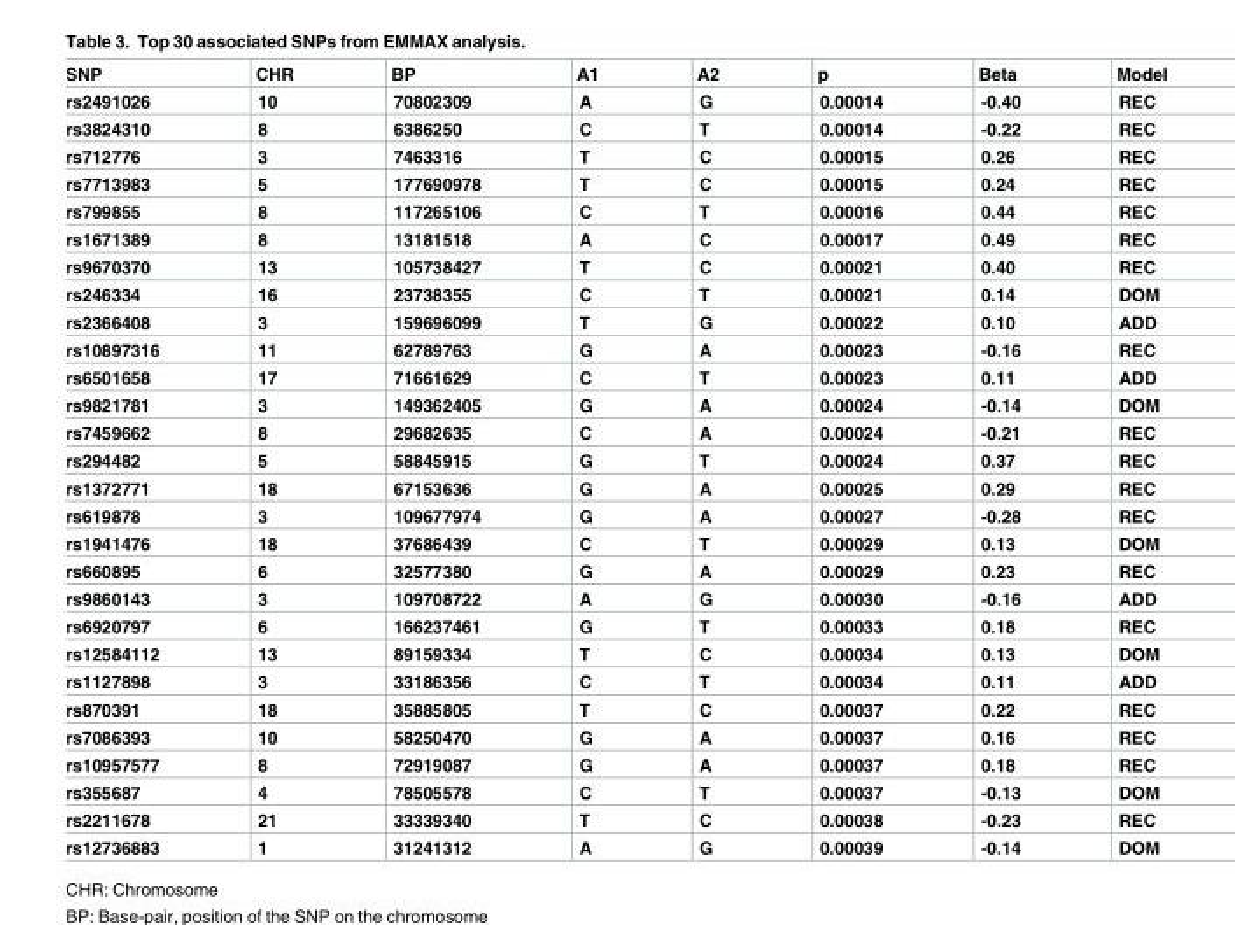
<table><thead><tr><td>SNP</td><td>CHR</td><td>BP</td><td>A1</td><td>A2</td><td>p</td><td>Beta</td><td>Model</td></tr></thead><tbody><tr><td>rs2491026</td><td>10</td><td>70802309</td><td>A</td><td>G</td><td>0.00014</td><td>-0.40</td><td>REC</td></tr><tr><td>rs3824310</td><td>8</td><td>6386250</td><td>C</td><td>T</td><td>0.00014</td><td>-0.22</td><td>REC</td></tr><tr><td>rs712776</td><td>3</td><td>7463316</td><td>T</td><td>C</td><td>0.00015</td><td>0.26</td><td>REC</td></tr><tr><td>rs7713983</td><td>5</td><td>177690978</td><td>T</td><td>C</td><td>0.00015</td><td>0.24</td><td>REC</td></tr><tr><td>rs799855</td><td>8</td><td>117265106</td><td>C</td><td>T</td><td>0.00016</td><td>0.44</td><td>REC</td></tr><tr><td>rs1671389</td><td>8</td><td>13181518</td><td>A</td><td>C</td><td>0.00017</td><td>0.49</td><td>REC</td></tr><tr><td>rs9670370</td><td>13</td><td>105738427</td><td>T</td><td>C</td><td>0.00021</td><td>0.40</td><td>REC</td></tr><tr><td>rs246334</td><td>16</td><td>23738355</td><td>C</td><td>T</td><td>0.00021</td><td>0.14</td><td>DOM</td></tr><tr><td>rs2366408</td><td>3</td><td>159696099</td><td>T</td><td>G</td><td>0.00022</td><td>0.10</td><td>ADD</td></tr><tr><td>rs10897316</td><td>11</td><td>62789763</td><td>G</td><td>A</td><td>0.00023</td><td>-0.16</td><td>REC</td></tr><tr><td>rs6501658</td><td>17</td><td>71661629</td><td>C</td><td>T</td><td>0.00023</td><td>0.11</td><td>ADD</td></tr><tr><td>rs9821781</td><td>3</td><td>149362405</td><td>G</td><td>A</td><td>0.00024</td><td>-0.14</td><td>DOM</td></tr><tr><td>rs7459662</td><td>8</td><td>29682635</td><td>C</td><td>A</td><td>0.00024</td><td>-0.21</td><td>REC</td></tr><tr><td>rs294482</td><td>5</td><td>58845915</td><td>G</td><td>T</td><td>0.00024</td><td>0.37</td><td>REC</td></tr><tr><td>rs1372771</td><td>18</td><td>67153636</td><td>G</td><td>A</td><td>0.00025</td><td>0.29</td><td>REC</td></tr><tr><td>rs619878</td><td>3</td><td>109677974</td><td>G</td><td>A</td><td>0.00027</td><td>-0.28</td><td>REC</td></tr><tr><td>rs1941476</td><td>18</td><td>37686439</td><td>C</td><td>T</td><td>0.00029</td><td>0.13</td><td>DOM</td></tr><tr><td>rs660895</td><td>6</td><td>32577380</td><td>G</td><td>A</td><td>0.00029</td><td>0.23</td><td>REC</td></tr><tr><td>rs9860143</td><td>3</td><td>109708722</td><td>A</td><td>G</td><td>0.00030</td><td>-0.16</td><td>ADD</td></tr><tr><td>rs6920797</td><td>6</td><td>166237461</td><td>G</td><td>T</td><td>0.00033</td><td>0.18</td><td>REC</td></tr><tr><td>rs12584112</td><td>13</td><td>89159334</td><td>T</td><td>C</td><td>0.00034</td><td>0.13</td><td>DOM</td></tr><tr><td>rs1127898</td><td>3</td><td>33186356</td><td>C</td><td>T</td><td>0.00034</td><td>0.11</td><td>ADD</td></tr><tr><td>rs870391</td><td>18</td><td>35885805</td><td>T</td><td>C</td><td>0.00037</td><td>0.22</td><td>REC</td></tr><tr><td>rs7086393</td><td>10</td><td>58250470</td><td>G</td><td>A</td><td>0.00037</td><td>0.16</td><td>REC</td></tr><tr><td>rs10957577</td><td>8</td><td>72919087</td><td>G</td><td>A</td><td>0.00037</td><td>0.18</td><td>REC</td></tr><tr><td>rs355687</td><td>4</td><td>78505578</td><td>C</td><td>T</td><td>0.00037</td><td>-0.13</td><td>DOM</td></tr><tr><td>rs2211678</td><td>21</td><td>33339340</td><td>T</td><td>C</td><td>0.00038</td><td>-0.23</td><td>REC</td></tr><tr><td>rs12736883</td><td>1</td><td>31241312</td><td>A</td><td>G</td><td>0.00039</td><td>-0.14</td><td>DOM</td></tr></tbody></table>